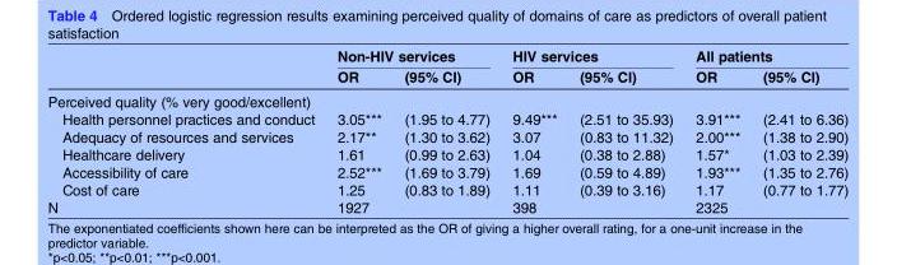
<table><thead><tr><td rowspan="2"></td><td colspan="2">Non-HIV services</td><td colspan="2">HIV services</td><td colspan="2">All patients</td></tr><tr><td>OR</td><td>(95% CI)</td><td>OR</td><td>(95% CI)</td><td>OR</td><td>(95% CI)</td></tr></thead><tbody><tr><td colspan="7">Perceived quality (% very good/excellent)</td></tr><tr><td>Health personnel practices and conduct</td><td>3.05***</td><td>(1.95 to 4.77)</td><td>9.49***</td><td>(2.51 to 35.93)</td><td>3.91***</td><td>(2.41 to 6.36)</td></tr><tr><td>Adequacy of resources and services</td><td>2.17**</td><td>(1.30 to 3.62)</td><td>3.07</td><td>(0.83 to 11.32)</td><td>2.00***</td><td>(1.38 to 2.90)</td></tr><tr><td>Healthcare delivery</td><td>1.61</td><td>(0.99 to 2.63)</td><td>1.04</td><td>(0.38 to 2.88)</td><td>1.57*</td><td>(1.03 to 2.39)</td></tr><tr><td>Accessibility of care</td><td>2.52***</td><td>(1.69 to 3.79)</td><td>1.69</td><td>(0.59 to 4.89)</td><td>1.93***</td><td>(1.35 to 2.76)</td></tr><tr><td>Cost of care</td><td>1.25</td><td>(0.83 to 1.89)</td><td>1.11</td><td>(0.39 to 3.16)</td><td>1.17</td><td>(0.77 to 1.77)</td></tr><tr><td>N</td><td colspan="2">1927</td><td colspan="2">398</td><td colspan="2">2325</td></tr></tbody></table>